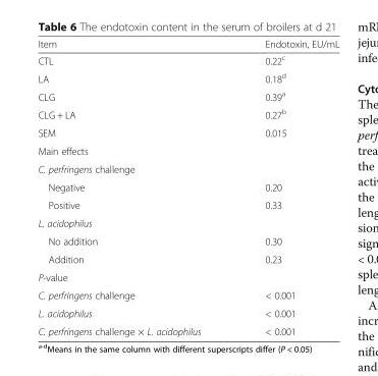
<table><thead><tr><td>Item</td><td>Endotoxin, EU/mL</td></tr></thead><tbody><tr><td>CTL</td><td>0.22<sup>c</sup></td></tr><tr><td>LA</td><td>0.18<sup>d</sup></td></tr><tr><td>CLG</td><td>0.39<sup>a</sup></td></tr><tr><td>CLG + LA</td><td>0.27<sup>b</sup></td></tr><tr><td>SEM</td><td>0.015</td></tr><tr><td colspan="2">Main effects</td></tr><tr><td colspan="2">C. perfringens challenge</td></tr><tr><td>Negative</td><td>0.20</td></tr><tr><td>Positive</td><td>0.33</td></tr><tr><td colspan="2">L. acidophilus</td></tr><tr><td>No addition</td><td>0.30</td></tr><tr><td>Addition</td><td>0.23</td></tr><tr><td colspan="2">P-value</td></tr><tr><td>C. perfringens challenge</td><td>&lt; 0.001</td></tr><tr><td>L. acidophilus</td><td>&lt; 0.001</td></tr><tr><td>C. perfringens challenge × L. acidophilus</td><td>&lt; 0.001</td></tr></tbody></table>